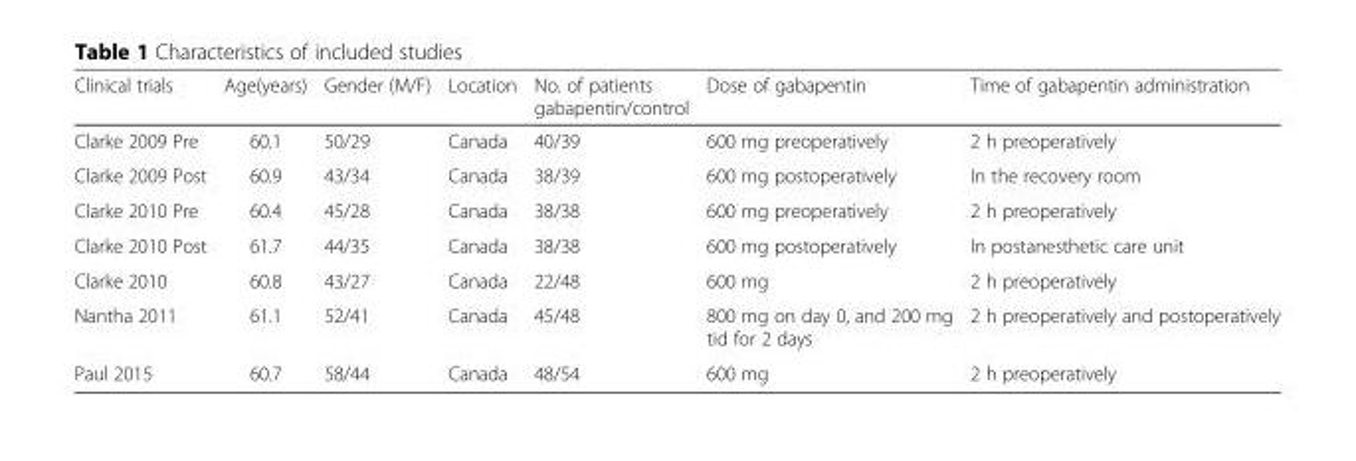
<table><thead><tr><td>Clinical trials</td><td>Age(years)</td><td>Gender (M/F)</td><td>Location</td><td>No. of patients gabapentin/control</td><td>Dose of gabapentin</td><td>Time of gabapentin administration</td></tr></thead><tbody><tr><td>Clarke 2009 Pre</td><td>60.1</td><td>50/29</td><td>Canada</td><td>40/39</td><td>600 mg preoperatively</td><td>2 h preoperatively</td></tr><tr><td>Clarke 2009 Post</td><td>60.9</td><td>43/34</td><td>Canada</td><td>38/39</td><td>600 mg postoperatively</td><td>In the recovery room</td></tr><tr><td>Clarke 2010 Pre</td><td>60.4</td><td>45/28</td><td>Canada</td><td>38/38</td><td>600 mg preoperatively</td><td>2 h preoperatively</td></tr><tr><td>Clarke 2010 Post</td><td>61.7</td><td>44/35</td><td>Canada</td><td>38/38</td><td>600 mg postoperatively</td><td>In postanesthetic care unit</td></tr><tr><td>Clarke 2010</td><td>60.8</td><td>43/27</td><td>Canada</td><td>22/48</td><td>600 mg</td><td>2 h preoperatively</td></tr><tr><td>Nantha 2011</td><td>61.1</td><td>52/41</td><td>Canada</td><td>45/48</td><td>800 mg on day 0, and 200 mg tid for 2 days</td><td>2 h preoperatively and postoperatively</td></tr><tr><td>Paul 2015</td><td>60.7</td><td>58/44</td><td>Canada</td><td>48/54</td><td>600 mg</td><td>2 h preoperatively</td></tr></tbody></table>